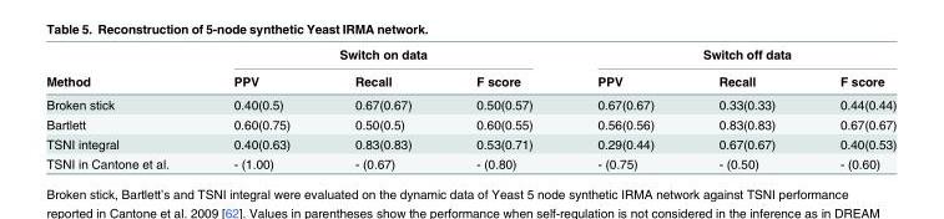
<table><thead><tr><td rowspan="2">Method</td><td colspan="3">Switch on data</td><td colspan="3">Switch off data</td></tr><tr><td>PPV</td><td>Recall</td><td>F score</td><td>PPV</td><td>Recall</td><td>F score</td></tr></thead><tbody><tr><td>Broken stick</td><td>0.40(0.5)</td><td>0.67(0.67)</td><td>0.50(0.57)</td><td>0.67(0.67)</td><td>0.33(0.33)</td><td>0.44(0.44)</td></tr><tr><td>Bartlett</td><td>0.60(0.75)</td><td>0.50(0.5)</td><td>0.60(0.55)</td><td>0.56(0.56)</td><td>0.83(0.83)</td><td>0.67(0.67)</td></tr><tr><td>TSNI integral</td><td>0.40(0.63)</td><td>0.83(0.83)</td><td>0.53(0.71)</td><td>0.29(0.44)</td><td>0.67(0.67)</td><td>0.40(0.53)</td></tr><tr><td>TSNI in Cantone et al.</td><td>- (1.00)</td><td>- (0.67)</td><td>- (0.80)</td><td>- (0.75)</td><td>- (0.50)</td><td>- (0.60)</td></tr></tbody></table>